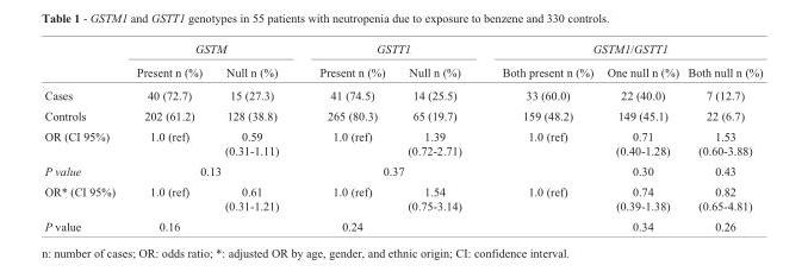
<table><thead><tr><td rowspan="2"></td><td colspan="2">GSTM</td><td colspan="2">GSTT1</td><td colspan="3">GSTM1/GSTT1</td></tr><tr><td>Present n (%)</td><td>Null n (%)</td><td>Present n (%)</td><td>Null n (%)</td><td>Both present n (%)</td><td>One null n (%)</td><td>Both null n (%)</td></tr></thead><tbody><tr><td>Cases</td><td>40 (72.7)</td><td>15 (27.3)</td><td>41 (74.5)</td><td>14 (25.5)</td><td>33 (60.0)</td><td>22 (40.0)</td><td>7 (12.7)</td></tr><tr><td>Controls</td><td>202 (61.2)</td><td>128 (38.8)</td><td>265 (80.3)</td><td>65 (19.7)</td><td>159 (48.2)</td><td>149 (45.1)</td><td>22 (6.7)</td></tr><tr><td>OR (CI 95%)</td><td>1.0 (ref)</td><td>0.59 (0.31-1.11)</td><td>1.0 (ref)</td><td>1.39 (0.72-2.71)</td><td>1.0 (ref)</td><td>0.71 (0.40-1.28)</td><td>1.53 (0.60-3.88)</td></tr><tr><td>P value</td><td colspan="2">0.13</td><td colspan="2">0.37</td><td></td><td>0.30</td><td>0.43</td></tr><tr><td>OR* (CI 95%)</td><td>1.0 (ref)</td><td>0.61 (0.31-1.21)</td><td>1.0 (ref)</td><td>1.54 (0.75-3.14)</td><td>1.0 (ref)</td><td>0.74 (0.39-1.38)</td><td>0.82 (0.65-4.81)</td></tr><tr><td>P value</td><td>0.16</td><td></td><td>0.24</td><td></td><td></td><td>0.34</td><td>0.26</td></tr></tbody></table>